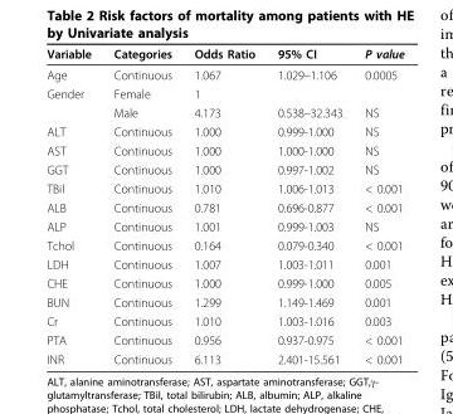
<table><thead><tr><td>Variable</td><td>Categories</td><td>Odds Ratio</td><td>95% CI</td><td>P value</td></tr></thead><tbody><tr><td>Age</td><td>Continuous</td><td>1.067</td><td>1.029–1.106</td><td>0.0005</td></tr><tr><td rowspan="2">Gender</td><td>Female</td><td>1</td><td></td><td></td></tr><tr><td>Male</td><td>4.173</td><td>0.538–32.343</td><td>NS</td></tr><tr><td>ALT</td><td>Continuous</td><td>1.000</td><td>0.999-1.000</td><td>NS</td></tr><tr><td>AST</td><td>Continuous</td><td>1.000</td><td>1.000-1.000</td><td>NS</td></tr><tr><td>GGT</td><td>Continuous</td><td>1.000</td><td>0.997-1.002</td><td>NS</td></tr><tr><td>TBil</td><td>Continuous</td><td>1.010</td><td>1.006-1.013</td><td>&lt; 0.001</td></tr><tr><td>ALB</td><td>Continuous</td><td>0.781</td><td>0.696-0.877</td><td>&lt; 0.001</td></tr><tr><td>ALP</td><td>Continuous</td><td>1.001</td><td>0.999-1.003</td><td>NS</td></tr><tr><td>Tchol</td><td>Continuous</td><td>0.164</td><td>0.079-0.340</td><td>&lt; 0.001</td></tr><tr><td>LDH</td><td>Continuous</td><td>1.007</td><td>1.003-1.011</td><td>0.001</td></tr><tr><td>CHE</td><td>Continuous</td><td>1.000</td><td>0.999-1.000</td><td>0.005</td></tr><tr><td>BUN</td><td>Continuous</td><td>1.299</td><td>1.149-1.469</td><td>0.001</td></tr><tr><td>Cr</td><td>Continuous</td><td>1.010</td><td>1.003-1.016</td><td>0.003</td></tr><tr><td>PTA</td><td>Continuous</td><td>0.956</td><td>0.937-0.975</td><td>&lt; 0.001</td></tr><tr><td>INR</td><td>Continuous</td><td>6.113</td><td>2.401-15.561</td><td>&lt; 0.001</td></tr></tbody></table>